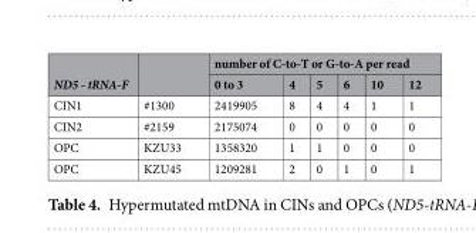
<table><thead><tr><td rowspan="2">ND5 - tRNA-F</td><td rowspan="2"></td><td colspan="6">number of C-to-T or G-to-A per read</td></tr><tr><td>0 to 3</td><td>4</td><td>5</td><td>6</td><td>10</td><td>12</td></tr></thead><tbody><tr><td>CIN1</td><td>#1300</td><td>2419905</td><td>8</td><td>4</td><td>4</td><td>1</td><td>1</td></tr><tr><td>CIN2</td><td>#2159</td><td>2175074</td><td>0</td><td>0</td><td>0</td><td>0</td><td>0</td></tr><tr><td>OPC</td><td>KZU33</td><td>1358320</td><td>1</td><td>1</td><td>0</td><td>0</td><td>0</td></tr><tr><td>OPC</td><td>KZU45</td><td>1209281</td><td>2</td><td>0</td><td>1</td><td>0</td><td>1</td></tr></tbody></table>